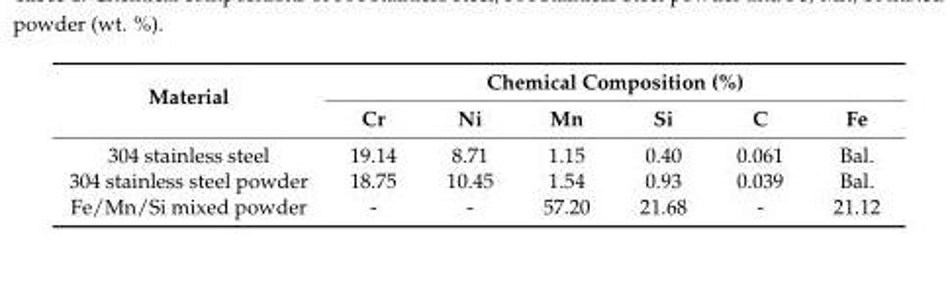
<table><thead><tr><td rowspan="2">Material</td><td colspan="6">Chemical Composition (%)</td></tr><tr><td>Cr</td><td>Ni</td><td>Mn</td><td>Si</td><td>C</td><td>Fe</td></tr></thead><tbody><tr><td>304 stainless steel</td><td>19.14</td><td>8.71</td><td>1.15</td><td>0.40</td><td>0.061</td><td>Bal.</td></tr><tr><td>304 stainless steel powder</td><td>18.75</td><td>10.45</td><td>1.54</td><td>0.93</td><td>0.039</td><td>Bal.</td></tr><tr><td>Fe/Mn/Si mixed powder</td><td>-</td><td>-</td><td>57.20</td><td>21.68</td><td>-</td><td>21.12</td></tr></tbody></table>